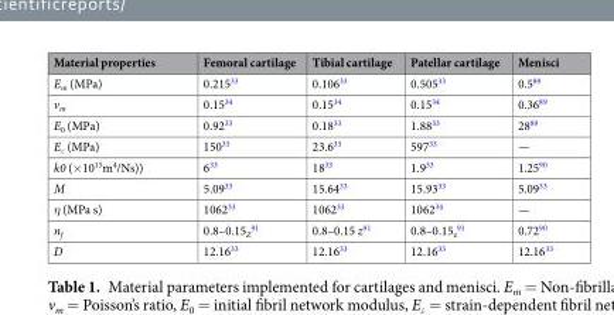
<table><thead><tr><td>Material properties</td><td>Femoral cartilage</td><td>Tibial cartilage</td><td>Patellar cartilage</td><td>Menisci</td></tr></thead><tbody><tr><td>E<sub>m</sub> (MPa)</td><td>0.215<sup>33</sup></td><td>0.106<sup>33</sup></td><td>0.505<sup>33</sup></td><td>0.5<sup>89</sup></td></tr><tr><td>v<sub>m</sub></td><td>0.15<sup>34</sup></td><td>0.15<sup>34</sup></td><td>0.15<sup>34</sup></td><td>0.36<sup>89</sup></td></tr><tr><td>E<sub>0</sub> (MPa)</td><td>0.92<sup>33</sup></td><td>0.18<sup>33</sup></td><td>1.88<sup>33</sup></td><td>28<sup>89</sup></td></tr><tr><td>E<sub>ε</sub> (MPa)</td><td>150<sup>33</sup></td><td>23.6<sup>33</sup></td><td>597<sup>33</sup></td><td>—</td></tr><tr><td>k0 (×10<sup>15</sup>m<sup>4</sup>/Ns))</td><td>6<sup>33</sup></td><td>18<sup>33</sup></td><td>1.9<sup>33</sup></td><td>1.25<sup>90</sup></td></tr><tr><td>M</td><td>5.09<sup>33</sup></td><td>15.64<sup>33</sup></td><td>15.93<sup>33</sup></td><td>5.09<sup>33</sup></td></tr><tr><td>η (MPa s)</td><td>1062<sup>33</sup></td><td>1062<sup>33</sup></td><td>1062<sup>34</sup></td><td>—</td></tr><tr><td>n<sub>f</sub></td><td>0.8–0.15<sub>Z</sub> <sup>91</sup></td><td>0.8–0.15 z<sup>91</sup></td><td>0.8–0.15<sub>z</sub> <sup>91</sup></td><td>0.72<sup>90</sup></td></tr><tr><td>D</td><td>12.16<sup>33</sup></td><td>12.16<sup>33</sup></td><td>12.16<sup>33</sup></td><td>12.16<sup>33</sup></td></tr></tbody></table>